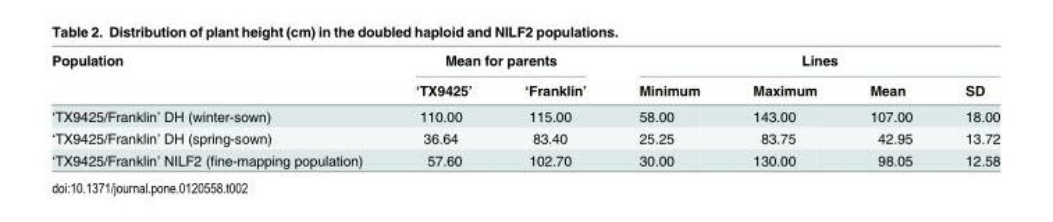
<table><thead><tr><td rowspan="2">Population</td><td colspan="2">Mean for parents</td><td colspan="4">Lines</td></tr><tr><td>‘TX9425’</td><td>‘Franklin’</td><td>Minimum</td><td>Maximum</td><td>Mean</td><td>SD</td></tr></thead><tbody><tr><td>‘TX9425/Franklin’ DH (winter-sown)</td><td>110.00</td><td>115.00</td><td>58.00</td><td>143.00</td><td>107.00</td><td>18.00</td></tr><tr><td>‘TX9425/Franklin’ DH (spring-sown)</td><td>36.64</td><td>83.40</td><td>25.25</td><td>83.75</td><td>42.95</td><td>13.72</td></tr><tr><td>‘TX9425/Franklin’ NILF2 (fine-mapping population)</td><td>57.60</td><td>102.70</td><td>30.00</td><td>130.00</td><td>98.05</td><td>12.58</td></tr></tbody></table>